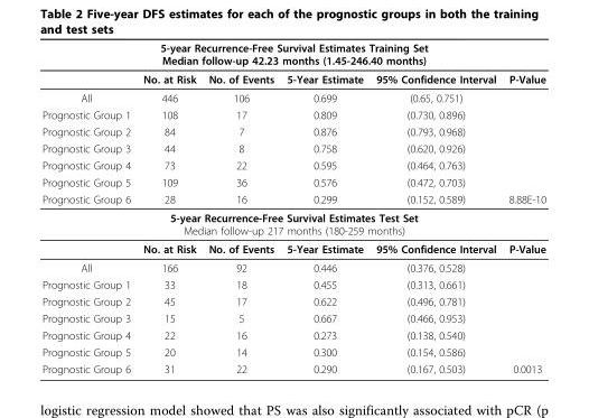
<table><thead><tr><td colspan="6">5-year Recurrence-Free Survival Estimates Training Set Median follow-up 42.23 months (1.45-246.40 months)</td></tr><tr><td></td><td>No. at Risk</td><td>No. of Events</td><td>5-Year Estimate</td><td>95% Confidence Interval</td><td>P-Value</td></tr></thead><tbody><tr><td>All</td><td>446</td><td>106</td><td>0.699</td><td>(0.65, 0.751)</td><td></td></tr><tr><td>Prognostic Group 1</td><td>108</td><td>17</td><td>0.809</td><td>(0.730, 0.896)</td><td></td></tr><tr><td>Prognostic Group 2</td><td>84</td><td>7</td><td>0.876</td><td>(0.793, 0.968)</td><td></td></tr><tr><td>Prognostic Group 3</td><td>44</td><td>8</td><td>0.758</td><td>(0.620, 0.926)</td><td></td></tr><tr><td>Prognostic Group 4</td><td>73</td><td>22</td><td>0.595</td><td>(0.464, 0.763)</td><td></td></tr><tr><td>Prognostic Group 5</td><td>109</td><td>36</td><td>0.576</td><td>(0.472, 0.703)</td><td></td></tr><tr><td>Prognostic Group 6</td><td>28</td><td>16</td><td>0.299</td><td>(0.152, 0.589)</td><td>8.88E-10</td></tr><tr><td colspan="6">5-year Recurrence-Free Survival Estimates Test Set Median follow-up 217 months (180-259 months)</td></tr><tr><td></td><td>No. at Risk</td><td>No. of Events</td><td>5-Year Estimate</td><td>95% Confidence Interval</td><td>P-Value</td></tr><tr><td>All</td><td>166</td><td>92</td><td>0.446</td><td>(0.376, 0.528)</td><td></td></tr><tr><td>Prognostic Group 1</td><td>33</td><td>18</td><td>0.455</td><td>(0.313, 0.661)</td><td></td></tr><tr><td>Prognostic Group 2</td><td>45</td><td>17</td><td>0.622</td><td>(0.496, 0.781)</td><td></td></tr><tr><td>Prognostic Group 3</td><td>15</td><td>5</td><td>0.667</td><td>(0.466, 0.953)</td><td></td></tr><tr><td>Prognostic Group 4</td><td>22</td><td>16</td><td>0.273</td><td>(0.138, 0.540)</td><td></td></tr><tr><td>Prognostic Group 5</td><td>20</td><td>14</td><td>0.300</td><td>(0.154, 0.586)</td><td></td></tr><tr><td>Prognostic Group 6</td><td>31</td><td>22</td><td>0.290</td><td>(0.167, 0.503)</td><td>0.0013</td></tr></tbody></table>